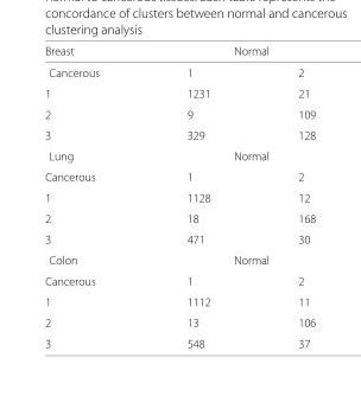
<table><thead><tr><td rowspan="2">Breast Cancerous</td><td colspan="2">Normal</td></tr><tr><td>1</td><td>2</td></tr></thead><tbody><tr><td>1</td><td>1231</td><td>21</td></tr><tr><td>2</td><td>9</td><td>109</td></tr><tr><td>3</td><td>329</td><td>128</td></tr><tr><td>Lung</td><td colspan="2">Normal</td></tr><tr><td>Cancerous</td><td>1</td><td>2</td></tr><tr><td>1</td><td>1128</td><td>12</td></tr><tr><td>2</td><td>18</td><td>168</td></tr><tr><td>3</td><td>471</td><td>30</td></tr><tr><td>Colon</td><td colspan="2">Normal</td></tr><tr><td>Cancerous</td><td>1</td><td>2</td></tr><tr><td>1</td><td>1112</td><td>11</td></tr><tr><td>2</td><td>13</td><td>106</td></tr><tr><td>3</td><td>548</td><td>37</td></tr></tbody></table>